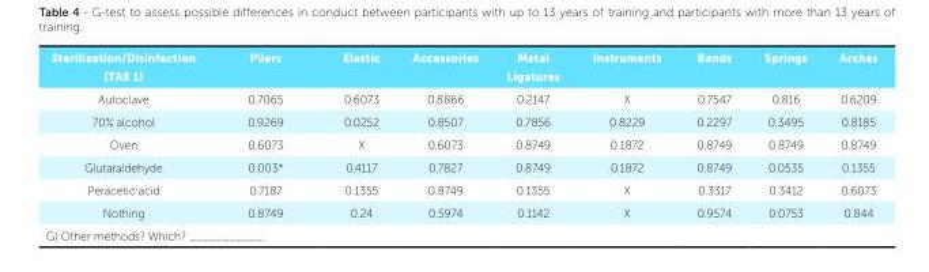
<table><tbody><tr><td>Sterilization/Disinfection (TAB 1)</td><td>Pliers</td><td>Elastic</td><td>Accessories</td><td>Metal Ligatures</td><td>Instruments</td><td>Bands</td><td>Springs</td><td>Arches</td></tr><tr><td>Autoclave</td><td>0.7065</td><td>0.6073</td><td>0.8866</td><td>0.2147</td><td>X</td><td>0.7547</td><td>0.816</td><td>0.6209</td></tr><tr><td>70% alcohol</td><td>0.9269</td><td>0.0252</td><td>0.8507</td><td>0.7856</td><td>0.8229</td><td>0.2297</td><td>0.3495</td><td>0.8185</td></tr><tr><td>Oven</td><td>0.6073</td><td>X</td><td>0.6073</td><td>0.8749</td><td>0.1872</td><td>0.8749</td><td>0.8749</td><td>0.8749</td></tr><tr><td>Glutaraldehyde</td><td>0.003*</td><td>0.4117</td><td>0.7827</td><td>0.8749</td><td>0.1872</td><td>0.8749</td><td>0.0535</td><td>0.1355</td></tr><tr><td>Peracetic acid</td><td>0.7187</td><td>0.1355</td><td>0.8749</td><td>0.1355</td><td>X</td><td>0.3317</td><td>0.3412</td><td>0.6073</td></tr><tr><td>Nothing</td><td>0.8749</td><td>0.24</td><td>0.5974</td><td>0.1142</td><td>X</td><td>0.9574</td><td>0.0753</td><td>0.844</td></tr></tbody></table>